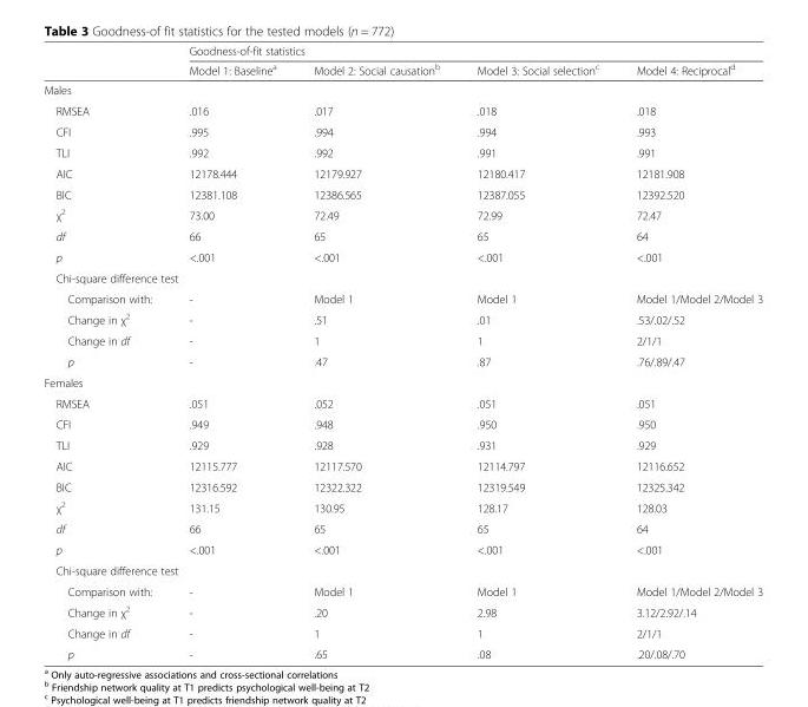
<table><thead><tr><td rowspan="2"></td><td colspan="4">Goodness-of-fit statistics</td></tr><tr><td>Model 1: Baseline<sup>a</sup></td><td>Model 2: Social causation<sup>b</sup></td><td>Model 3: Social selection<sup>c</sup></td><td>Model 4: Reciprocal<sup>d</sup></td></tr></thead><tbody><tr><td colspan="5">Males</td></tr><tr><td>RMSEA</td><td>.016</td><td>.017</td><td>.018</td><td>.018</td></tr><tr><td>CFI</td><td>.995</td><td>.994</td><td>.994</td><td>.993</td></tr><tr><td>TLI</td><td>.992</td><td>.992</td><td>.991</td><td>.991</td></tr><tr><td>AIC</td><td>12178.444</td><td>12179.927</td><td>12180.417</td><td>12181.908</td></tr><tr><td>BIC</td><td>12381.108</td><td>12386.565</td><td>12387.055</td><td>12392.520</td></tr><tr><td>χ<sup>2</sup></td><td>73.00</td><td>72.49</td><td>72.99</td><td>72.47</td></tr><tr><td>df</td><td>66</td><td>65</td><td>65</td><td>64</td></tr><tr><td>p</td><td>&lt;.001</td><td>&lt;.001</td><td>&lt;.001</td><td>&lt;.001</td></tr><tr><td colspan="5">Chi-square difference test</td></tr><tr><td>Comparison with:</td><td>-</td><td>Model 1</td><td>Model 1</td><td>Model 1/Model 2/Model 3</td></tr><tr><td>Change in χ<sup>2</sup></td><td>-</td><td>.51</td><td>.01</td><td>.53/.02/.52</td></tr><tr><td>Change in df</td><td>-</td><td>1</td><td>1</td><td>2/1/1</td></tr><tr><td>p</td><td>-</td><td>.47</td><td>.87</td><td>.76/.89/.47</td></tr><tr><td colspan="5">Females</td></tr><tr><td>RMSEA</td><td>.051</td><td>.052</td><td>.051</td><td>.051</td></tr><tr><td>CFI</td><td>.949</td><td>.948</td><td>.950</td><td>.950</td></tr><tr><td>TLI</td><td>.929</td><td>.928</td><td>.931</td><td>.929</td></tr><tr><td>AIC</td><td>12115.777</td><td>12117.570</td><td>12114.797</td><td>12116.652</td></tr><tr><td>BIC</td><td>12316.592</td><td>12322.322</td><td>12319.549</td><td>12325.342</td></tr><tr><td>χ<sup>2</sup></td><td>131.15</td><td>130.95</td><td>128.17</td><td>128.03</td></tr><tr><td>df</td><td>66</td><td>65</td><td>65</td><td>64</td></tr><tr><td>p</td><td>&lt;.001</td><td>&lt;.001</td><td>&lt;.001</td><td>&lt;.001</td></tr><tr><td colspan="5">Chi-square difference test</td></tr><tr><td>Comparison with:</td><td>-</td><td>Model 1</td><td>Model 1</td><td>Model 1/Model 2/Model 3</td></tr><tr><td>Change in χ<sup>2</sup></td><td>-</td><td>.20</td><td>2.98</td><td>3.12/2.92/.14</td></tr><tr><td>Change in df</td><td>-</td><td>1</td><td>1</td><td>2/1/1</td></tr><tr><td>p</td><td>-</td><td>.65</td><td>.08</td><td>.20/.08/.70</td></tr></tbody></table>